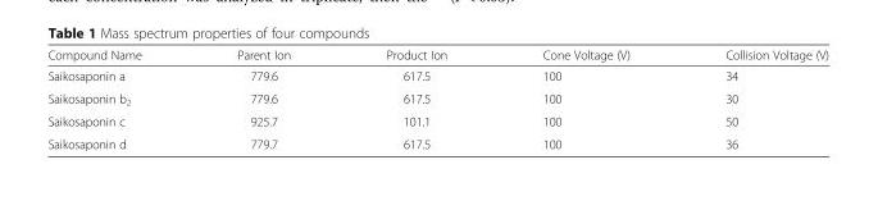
<table><thead><tr><td>Compound Name</td><td>Parent Ion</td><td>Product Ion</td><td>Cone Voltage (V)</td><td>Collision Voltage (V)</td></tr></thead><tbody><tr><td>Saikosaponin a</td><td>779.6</td><td>617.5</td><td>100</td><td>34</td></tr><tr><td>Saikosaponin b<sub>2</sub></td><td>779.6</td><td>617.5</td><td>100</td><td>30</td></tr><tr><td>Saikosaponin c</td><td>925.7</td><td>101.1</td><td>100</td><td>50</td></tr><tr><td>Saikosaponin d</td><td>779.7</td><td>617.5</td><td>100</td><td>36</td></tr></tbody></table>